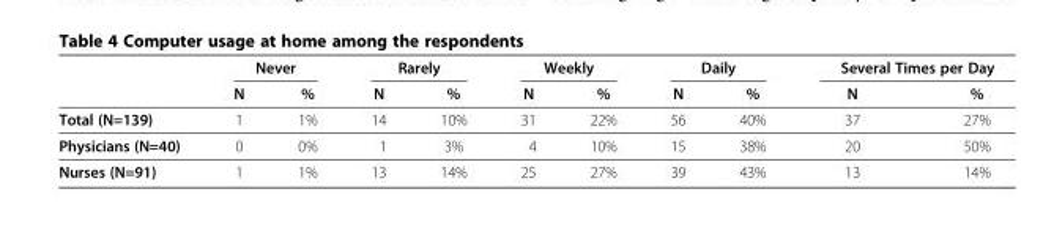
<table><thead><tr><td rowspan="2"></td><td colspan="2">Never</td><td colspan="2">Rarely</td><td colspan="2">Weekly</td><td colspan="2">Daily</td><td colspan="2">Several Times per Day</td></tr><tr><td>N</td><td>%</td><td>N</td><td>%</td><td>N</td><td>%</td><td>N</td><td>%</td><td>N</td><td>%</td></tr></thead><tbody><tr><td>Total (N=139)</td><td>1</td><td>1%</td><td>14</td><td>10%</td><td>31</td><td>22%</td><td>56</td><td>40%</td><td>37</td><td>27%</td></tr><tr><td>Physicians (N=40)</td><td>0</td><td>0%</td><td>1</td><td>3%</td><td>4</td><td>10%</td><td>15</td><td>38%</td><td>20</td><td>50%</td></tr><tr><td>Nurses (N=91)</td><td>1</td><td>1%</td><td>13</td><td>14%</td><td>25</td><td>27%</td><td>39</td><td>43%</td><td>13</td><td>14%</td></tr></tbody></table>